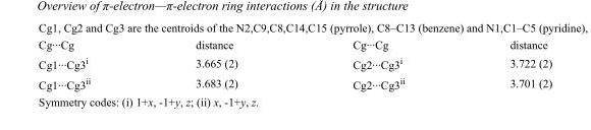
<table><tbody><tr><td>Cg···Cg</td><td>distance</td><td>Cg···Cg</td><td>distance</td></tr><tr><td>Cg1···Cg3<sup>i</sup></td><td>3.665 (2)</td><td>Cg2···Cg3<sup>i</sup></td><td>3.722 (2)</td></tr><tr><td>Cg1···Cg3<sup>ii</sup></td><td>3.683 (2)</td><td>Cg2···Cg3<sup>ii</sup></td><td>3.701 (2)</td></tr></tbody></table>